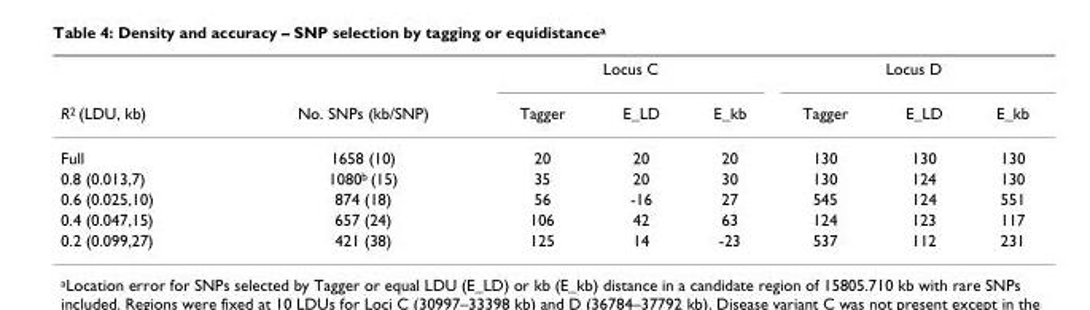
<table><thead><tr><td rowspan="2">R<sup>2</sup> (LDU, kb)</td><td rowspan="2">No. SNPs (kb/SNP)</td><td colspan="3">Locus C</td><td colspan="3">Locus D</td></tr><tr><td>Tagger</td><td>E_LD</td><td>E_kb</td><td>Tagger</td><td>E_LD</td><td>E_kb</td></tr></thead><tbody><tr><td>Full</td><td>1658 (10)</td><td>20</td><td>20</td><td>20</td><td>130</td><td>130</td><td>130</td></tr><tr><td>0.8 (0.013,7)</td><td>1080<sup>b</sup> (15)</td><td>35</td><td>20</td><td>30</td><td>130</td><td>124</td><td>130</td></tr><tr><td>0.6 (0.025,10)</td><td>874 (18)</td><td>56</td><td>-16</td><td>27</td><td>545</td><td>124</td><td>551</td></tr><tr><td>0.4 (0.047,15)</td><td>657 (24)</td><td>106</td><td>42</td><td>63</td><td>124</td><td>123</td><td>117</td></tr><tr><td>0.2 (0.099,27)</td><td>421 (38)</td><td>125</td><td>14</td><td>-23</td><td>537</td><td>112</td><td>231</td></tr></tbody></table>